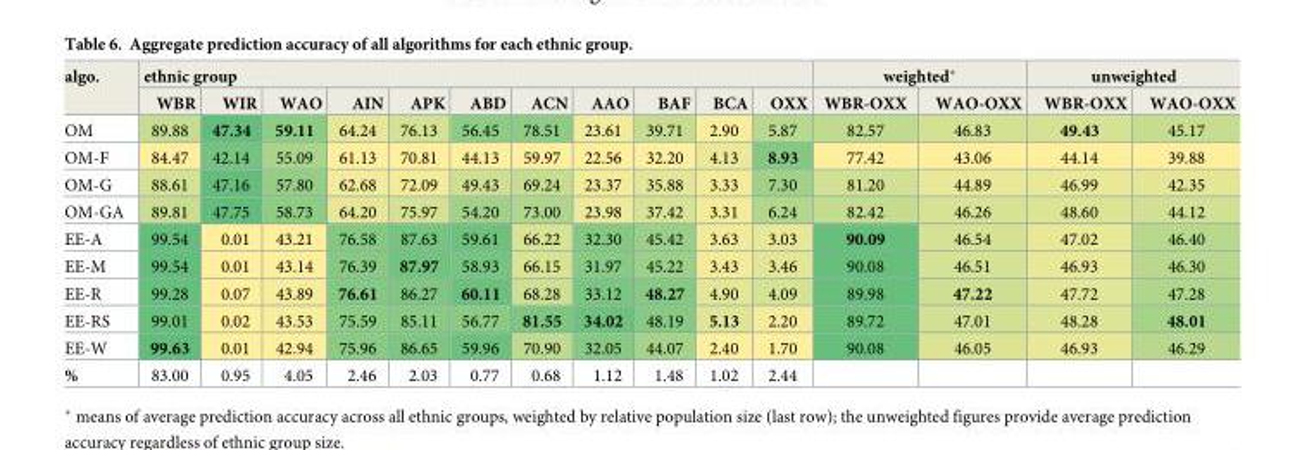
<table><thead><tr><td rowspan="2">algo.</td><td colspan="11">ethnic group</td><td colspan="2">weighted*</td><td colspan="2">unweighted</td></tr><tr><td>WBR</td><td>WIR</td><td>WAO</td><td>AIN</td><td>APK</td><td>ABD</td><td>ACN</td><td>AAO</td><td>BAF</td><td>BCA</td><td>OXX</td><td>WBR-OXX</td><td>WAO-OXX</td><td>WBR-OXX</td><td>WAO-OXX</td></tr></thead><tbody><tr><td>OM</td><td>89.88</td><td>47.34</td><td>59.11</td><td>64.24</td><td>76.13</td><td>56.45</td><td>78.51</td><td>23.61</td><td>39.71</td><td>2.90</td><td>5.87</td><td>82.57</td><td>46.83</td><td>49.43</td><td>45.17</td></tr><tr><td>OM-F</td><td>84.47</td><td>42.14</td><td>55.09</td><td>61.13</td><td>70.81</td><td>44.13</td><td>59.97</td><td>22.56</td><td>32.20</td><td>4.13</td><td>8.93</td><td>77.42</td><td>43.06</td><td>44.14</td><td>39.88</td></tr><tr><td>OM-G</td><td>88.61</td><td>47.16</td><td>57.80</td><td>62.68</td><td>72.09</td><td>49.43</td><td>69.24</td><td>23.37</td><td>35.88</td><td>3.33</td><td>7.30</td><td>81.20</td><td>44.89</td><td>46.99</td><td>42.35</td></tr><tr><td>OM-GA</td><td>89.81</td><td>47.75</td><td>58.73</td><td>64.20</td><td>75.97</td><td>54.20</td><td>73.00</td><td>23.98</td><td>37.42</td><td>3.31</td><td>6.24</td><td>82.42</td><td>46.26</td><td>48.60</td><td>44.12</td></tr><tr><td>EE-A</td><td>99.54</td><td>0.01</td><td>43.21</td><td>76.58</td><td>87.63</td><td>59.61</td><td>66.22</td><td>32.30</td><td>45.42</td><td>3.63</td><td>3.03</td><td>90.09</td><td>46.54</td><td>47.02</td><td>46.40</td></tr><tr><td>EE-M</td><td>99.54</td><td>0.01</td><td>43.14</td><td>76.39</td><td>87.97</td><td>58.93</td><td>66.15</td><td>31.97</td><td>45.22</td><td>3.43</td><td>3.46</td><td>90.08</td><td>46.51</td><td>46.93</td><td>46.30</td></tr><tr><td>EE-R</td><td>99.28</td><td>0.07</td><td>43.89</td><td>76.61</td><td>86.27</td><td>60.11</td><td>68.28</td><td>33.12</td><td>48.27</td><td>4.90</td><td>4.09</td><td>89.98</td><td>47.22</td><td>47.72</td><td>47.28</td></tr><tr><td>EE-RS</td><td>99.01</td><td>0.02</td><td>43.53</td><td>75.59</td><td>85.11</td><td>56.77</td><td>81.55</td><td>34.02</td><td>48.19</td><td>5.13</td><td>2.20</td><td>89.72</td><td>47.01</td><td>48.28</td><td>48.01</td></tr><tr><td>EE-W</td><td>99.63</td><td>0.01</td><td>42.94</td><td>75.96</td><td>86.65</td><td>59.96</td><td>70.90</td><td>32.05</td><td>44.07</td><td>2.40</td><td>1.70</td><td>90.08</td><td>46.05</td><td>46.93</td><td>46.29</td></tr><tr><td>%</td><td>83.00</td><td>0.95</td><td>4.05</td><td>2.46</td><td>2.03</td><td>0.77</td><td>0.68</td><td>1.12</td><td>1.48</td><td>1.02</td><td>2.44</td><td></td><td></td><td></td><td></td></tr></tbody></table>